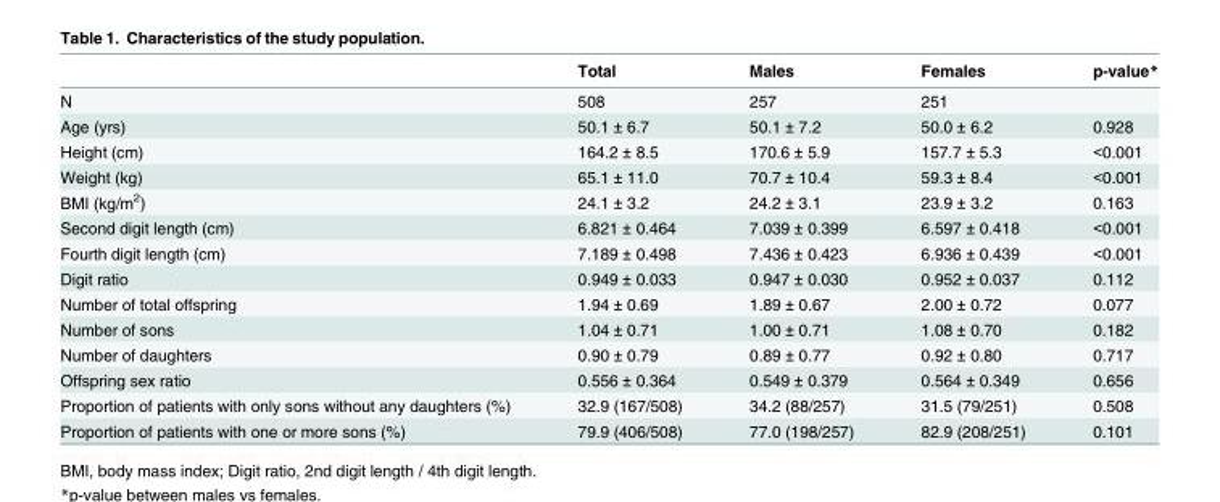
<table><thead><tr><td></td><td>Total</td><td>Males</td><td>Females</td><td>p-value*</td></tr></thead><tbody><tr><td>N</td><td>508</td><td>257</td><td>251</td><td></td></tr><tr><td>Age (yrs)</td><td>50.1 ± 6.7</td><td>50.1 ± 7.2</td><td>50.0 ± 6.2</td><td>0.928</td></tr><tr><td>Height (cm)</td><td>164.2 ± 8.5</td><td>170.6 ± 5.9</td><td>157.7 ± 5.3</td><td>&lt;0.001</td></tr><tr><td>Weight (kg)</td><td>65.1 ± 11.0</td><td>70.7 ± 10.4</td><td>59.3 ± 8.4</td><td>&lt;0.001</td></tr><tr><td>BMI (kg/m<sup>2</sup>)</td><td>24.1 ± 3.2</td><td>24.2 ± 3.1</td><td>23.9 ± 3.2</td><td>0.163</td></tr><tr><td>Second digit length (cm)</td><td>6.821 ± 0.464</td><td>7.039 ± 0.399</td><td>6.597 ± 0.418</td><td>&lt;0.001</td></tr><tr><td>Fourth digit length (cm)</td><td>7.189 ± 0.498</td><td>7.436 ± 0.423</td><td>6.936 ± 0.439</td><td>&lt;0.001</td></tr><tr><td>Digit ratio</td><td>0.949 ± 0.033</td><td>0.947 ± 0.030</td><td>0.952 ± 0.037</td><td>0.112</td></tr><tr><td>Number of total offspring</td><td>1.94 ± 0.69</td><td>1.89 ± 0.67</td><td>2.00 ± 0.72</td><td>0.077</td></tr><tr><td>Number of sons</td><td>1.04 ± 0.71</td><td>1.00 ± 0.71</td><td>1.08 ± 0.70</td><td>0.182</td></tr><tr><td>Number of daughters</td><td>0.90 ± 0.79</td><td>0.89 ± 0.77</td><td>0.92 ± 0.80</td><td>0.717</td></tr><tr><td>Offspring sex ratio</td><td>0.556 ± 0.364</td><td>0.549 ± 0.379</td><td>0.564 ± 0.349</td><td>0.656</td></tr><tr><td>Proportion of patients with only sons without any daughters (%)</td><td>32.9 (167/508)</td><td>34.2 (88/257)</td><td>31.5 (79/251)</td><td>0.508</td></tr><tr><td>Proportion of patients with one or more sons (%)</td><td>79.9 (406/508)</td><td>77.0 (198/257)</td><td>82.9 (208/251)</td><td>0.101</td></tr></tbody></table>